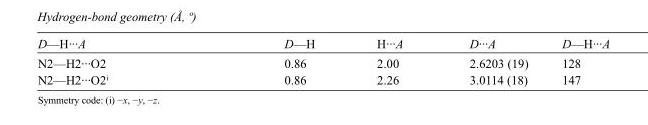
<table><tbody><tr><td>D—H···A</td><td>D—H</td><td>H···A</td><td>D···A</td><td>D—H···A</td></tr><tr><td>N2—H2···O2</td><td>0.86</td><td>2.00</td><td>2.6203 (19)</td><td>128</td></tr><tr><td>N2—H2···O2<sup>i</sup></td><td>0.86</td><td>2.26</td><td>3.0114 (18)</td><td>147</td></tr></tbody></table>